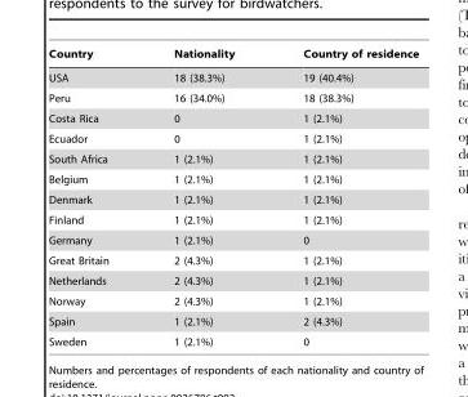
<table><thead><tr><td>Country</td><td>Nationality</td><td>Country of residence</td></tr></thead><tbody><tr><td>USA</td><td>18 (38.3%)</td><td>19 (40.4%)</td></tr><tr><td>Peru</td><td>16 (34.0%)</td><td>18 (38.3%)</td></tr><tr><td>Costa Rica</td><td>0</td><td>1 (2.1%)</td></tr><tr><td>Ecuador</td><td>0</td><td>1 (2.1%)</td></tr><tr><td>South Africa</td><td>1 (2.1%)</td><td>1 (2.1%)</td></tr><tr><td>Belgium</td><td>1 (2.1%)</td><td>1 (2.1%)</td></tr><tr><td>Denmark</td><td>1 (2.1%)</td><td>1 (2.1%)</td></tr><tr><td>Finland</td><td>1 (2.1%)</td><td>1 (2.1%)</td></tr><tr><td>Germany</td><td>1 (2.1%)</td><td>0</td></tr><tr><td>Great Britain</td><td>2 (4.3%)</td><td>1 (2.1%)</td></tr><tr><td>Netherlands</td><td>2 (4.3%)</td><td>1 (2.1%)</td></tr><tr><td>Norway</td><td>2 (4.3%)</td><td>1 (2.1%)</td></tr><tr><td>Spain</td><td>1 (2.1%)</td><td>2 (4.3%)</td></tr><tr><td>Sweden</td><td>1 (2.1%)</td><td>0</td></tr></tbody></table>